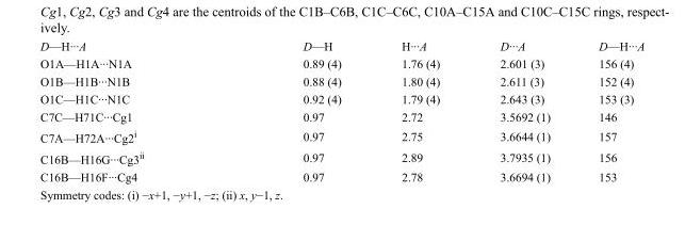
<table><tbody><tr><td>D—H···A</td><td>D—H</td><td>H···A</td><td>D···A</td><td>D—H···A</td></tr><tr><td>O1A—H1A···N1A</td><td>0.89 (4)</td><td>1.76 (4)</td><td>2.601 (3)</td><td>156 (4)</td></tr><tr><td>O1B—H1B···N1B</td><td>0.88 (4)</td><td>1.80 (4)</td><td>2.611 (3)</td><td>152 (4)</td></tr><tr><td>O1C—H1C···N1C</td><td>0.92 (4)</td><td>1.79 (4)</td><td>2.643 (3)</td><td>153 (3)</td></tr><tr><td>C7C—H71C···Cg1</td><td>0.97</td><td>2.72</td><td>3.5692 (1)</td><td>146</td></tr><tr><td>C7A—H72A···Cg2<sup>i</sup></td><td>0.97</td><td>2.75</td><td>3.6644 (1)</td><td>157</td></tr><tr><td>C16B—H16G···Cg3<sup>ii</sup></td><td>0.97</td><td>2.89</td><td>3.7935 (1)</td><td>156</td></tr><tr><td>C16B—H16F···Cg4</td><td>0.97</td><td>2.78</td><td>3.6694 (1)</td><td>153</td></tr></tbody></table>